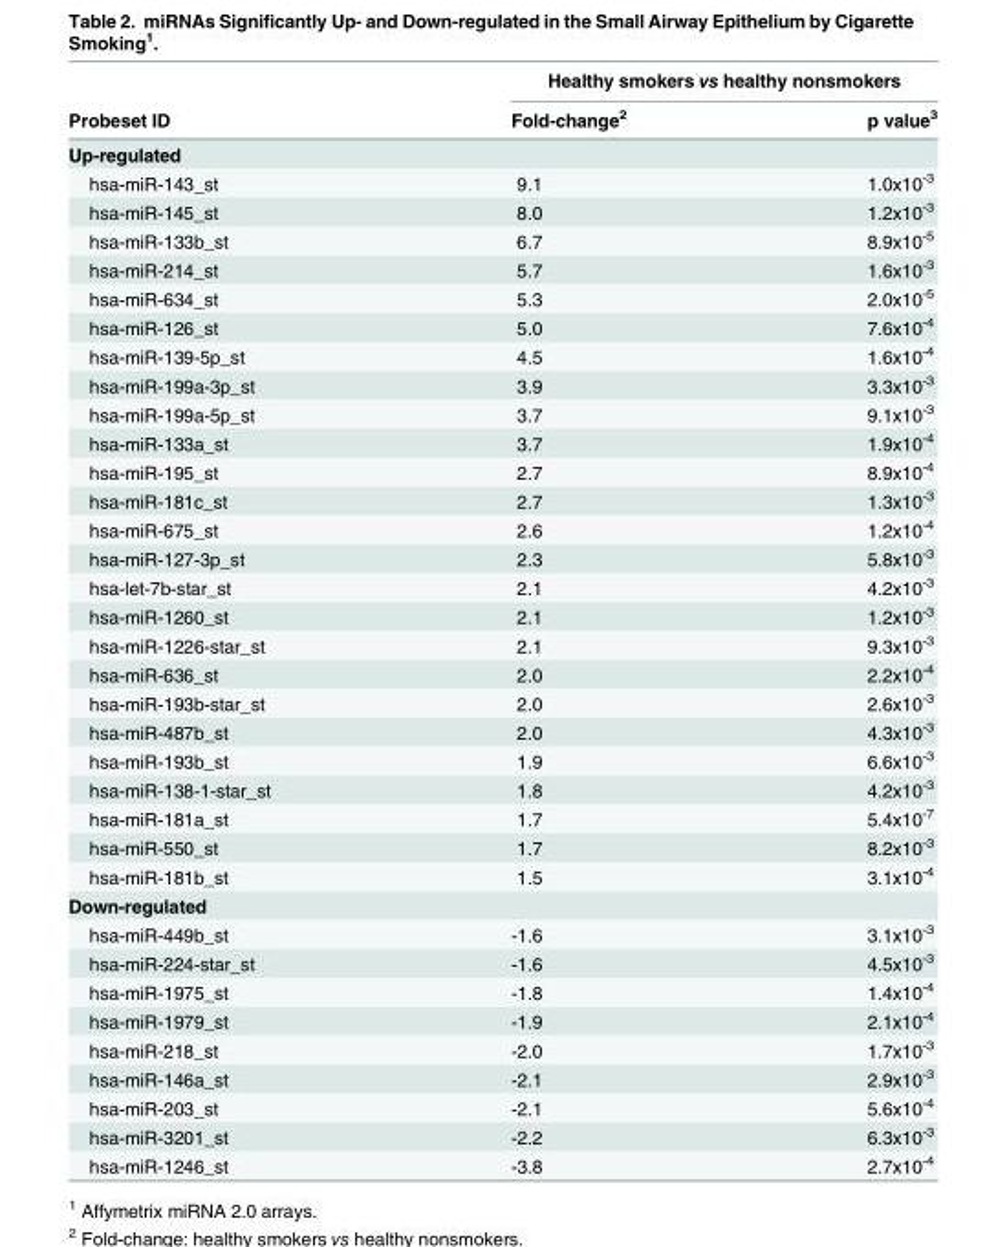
<table><thead><tr><td rowspan="2">Probeset ID</td><td colspan="2">Healthy smokers vs healthy nonsmokers</td></tr><tr><td>Fold-change<sup>2</sup></td><td>p value<sup>3</sup></td></tr></thead><tbody><tr><td colspan="3">Up-regulated</td></tr><tr><td>hsa-miR-143_st</td><td>9.1</td><td>1.0x10<sup>-3</sup></td></tr><tr><td>hsa-miR-145_st</td><td>8.0</td><td>1.2x10<sup>-3</sup></td></tr><tr><td>hsa-miR-133b_st</td><td>6.7</td><td>8.9x10<sup>-5</sup></td></tr><tr><td>hsa-miR-214_st</td><td>5.7</td><td>1.6x10<sup>-3</sup></td></tr><tr><td>hsa-miR-634_st</td><td>5.3</td><td>2.0x10<sup>-5</sup></td></tr><tr><td>hsa-miR-126_st</td><td>5.0</td><td>7.6x10<sup>-4</sup></td></tr><tr><td>hsa-miR-139-5p_st</td><td>4.5</td><td>1.6x10<sup>-4</sup></td></tr><tr><td>hsa-miR-199a-3p_st</td><td>3.9</td><td>3.3x10<sup>-3</sup></td></tr><tr><td>hsa-miR-199a-5p_st</td><td>3.7</td><td>9.1x10<sup>-3</sup></td></tr><tr><td>hsa-miR-133a_st</td><td>3.7</td><td>1.9x10<sup>-4</sup></td></tr><tr><td>hsa-miR-195_st</td><td>2.7</td><td>8.9x10<sup>-4</sup></td></tr><tr><td>hsa-miR-181c_st</td><td>2.7</td><td>1.3x10<sup>-3</sup></td></tr><tr><td>hsa-miR-675_st</td><td>2.6</td><td>1.2x10<sup>-4</sup></td></tr><tr><td>hsa-miR-127-3p_st</td><td>2.3</td><td>5.8x10<sup>-3</sup></td></tr><tr><td>hsa-let-7b-star_st</td><td>2.1</td><td>4.2x10<sup>-3</sup></td></tr><tr><td>hsa-miR-1260_st</td><td>2.1</td><td>1.2x10<sup>-3</sup></td></tr><tr><td>hsa-miR-1226-star_st</td><td>2.1</td><td>9.3x10<sup>-3</sup></td></tr><tr><td>hsa-miR-636_st</td><td>2.0</td><td>2.2x10<sup>-4</sup></td></tr><tr><td>hsa-miR-193b-star_st</td><td>2.0</td><td>2.6x10<sup>-3</sup></td></tr><tr><td>hsa-miR-487b_st</td><td>2.0</td><td>4.3x10<sup>-3</sup></td></tr><tr><td>hsa-miR-193b_st</td><td>1.9</td><td>6.6x10<sup>-3</sup></td></tr><tr><td>hsa-miR-138-1-star_st</td><td>1.8</td><td>4.2x10<sup>-3</sup></td></tr><tr><td>hsa-miR-181a_st</td><td>1.7</td><td>5.4x10<sup>-7</sup></td></tr><tr><td>hsa-miR-550_st</td><td>1.7</td><td>8.2x10<sup>-3</sup></td></tr><tr><td>hsa-miR-181b_st</td><td>1.5</td><td>3.1x10<sup>-4</sup></td></tr><tr><td colspan="3">Down-regulated</td></tr><tr><td>hsa-miR-449b_st</td><td>-1.6</td><td>3.1x10<sup>-3</sup></td></tr><tr><td>hsa-miR-224-star_st</td><td>-1.6</td><td>4.5x10<sup>-3</sup></td></tr><tr><td>hsa-miR-1975_st</td><td>-1.8</td><td>1.4x10<sup>-4</sup></td></tr><tr><td>hsa-miR-1979_st</td><td>-1.9</td><td>2.1x10<sup>-4</sup></td></tr><tr><td>hsa-miR-218_st</td><td>-2.0</td><td>1.7x10<sup>-3</sup></td></tr><tr><td>hsa-miR-146a_st</td><td>-2.1</td><td>2.9x10<sup>-3</sup></td></tr><tr><td>hsa-miR-203_st</td><td>-2.1</td><td>5.6x10<sup>-4</sup></td></tr><tr><td>hsa-miR-3201_st</td><td>-2.2</td><td>6.3x10<sup>-3</sup></td></tr><tr><td>hsa-miR-1246_st</td><td>-3.8</td><td>2.7x10<sup>-4</sup></td></tr></tbody></table>